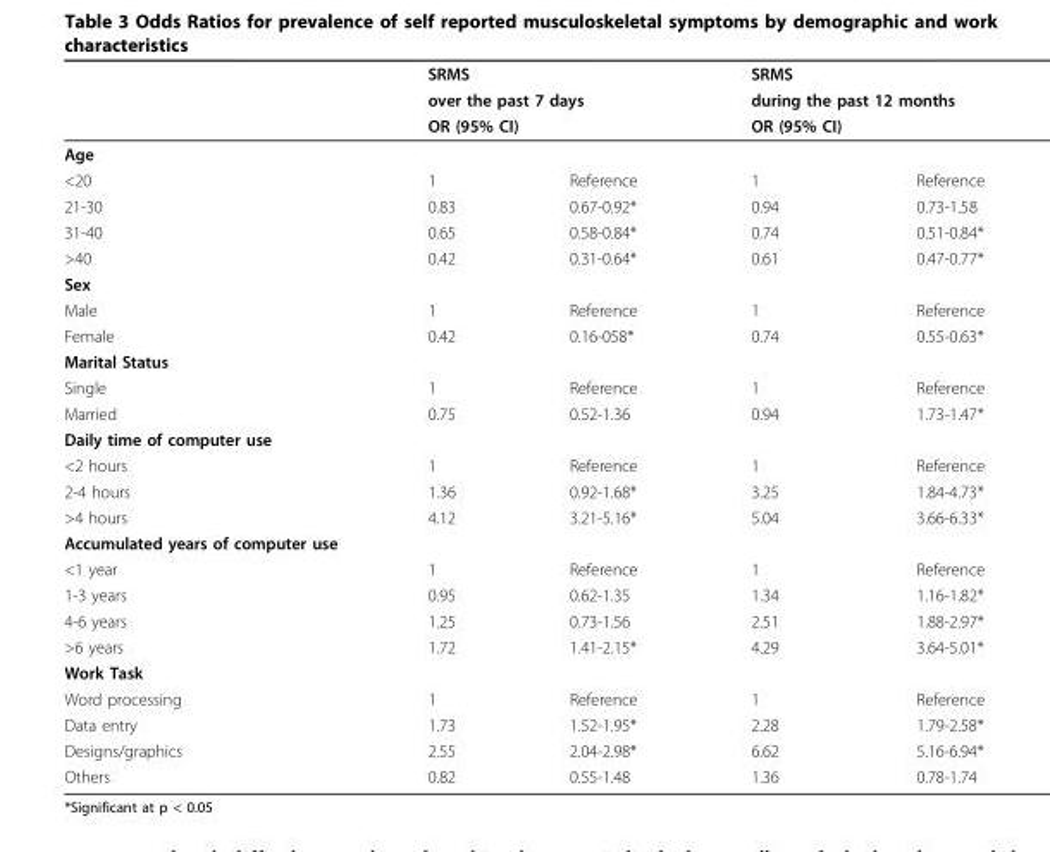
<table><thead><tr><td rowspan="4">Age</td><td rowspan="3" colspan="2">SRMS over the past 7 days OR (95% CI)</td><td rowspan="3" colspan="2">SRMS during the past 12 months OR (95% CI)</td></tr><tr></tr><tr></tr><tr><td></td><td></td><td></td><td></td></tr></thead><tbody><tr><td>&lt;20</td><td>1</td><td>Reference</td><td>1</td><td>Reference</td></tr><tr><td>21-30</td><td>0.83</td><td>0.67-0.92*</td><td>0.94</td><td>0.73-1.58</td></tr><tr><td>31-40</td><td>0.65</td><td>0.58-0.84*</td><td>0.74</td><td>0.51-0.84*</td></tr><tr><td>&gt;40</td><td>0.42</td><td>0.31-0.64*</td><td>0.61</td><td>0.47-0.77*</td></tr><tr><td colspan="5">Sex</td></tr><tr><td>Male</td><td>1</td><td>Reference</td><td>1</td><td>Reference</td></tr><tr><td>Female</td><td>0.42</td><td>0.16-058*</td><td>0.74</td><td>0.55-0.63*</td></tr><tr><td colspan="5">Marital Status</td></tr><tr><td>Single</td><td>1</td><td>Reference</td><td>1</td><td>Reference</td></tr><tr><td>Married</td><td>0.75</td><td>0.52-1.36</td><td>0.94</td><td>1.73-1.47*</td></tr><tr><td colspan="5">Daily time of computer use</td></tr><tr><td>&lt;2 hours</td><td>1</td><td>Reference</td><td>1</td><td>Reference</td></tr><tr><td>2-4 hours</td><td>1.36</td><td>0.92-1.68*</td><td>3.25</td><td>1.84-4.73*</td></tr><tr><td>&gt;4 hours</td><td>4.12</td><td>3.21-5.16*</td><td>5.04</td><td>3.66-6.33*</td></tr><tr><td colspan="5">Accumulated years of computer use</td></tr><tr><td>&lt;1 year</td><td>1</td><td>Reference</td><td>1</td><td>Reference</td></tr><tr><td>1-3 years</td><td>0.95</td><td>0.62-1.35</td><td>1.34</td><td>1.16-1.82*</td></tr><tr><td>4-6 years</td><td>1.25</td><td>0.73-1.56</td><td>2.51</td><td>1.88-2.97*</td></tr><tr><td>&gt;6 years</td><td>1.72</td><td>1.41-2.15*</td><td>4.29</td><td>3.64-5.01*</td></tr><tr><td colspan="5">Work Task</td></tr><tr><td>Word processing</td><td>1</td><td>Reference</td><td>1</td><td>Reference</td></tr><tr><td>Data entry</td><td>1.73</td><td>1.52-1.95*</td><td>2.28</td><td>1.79-2.58*</td></tr><tr><td>Designs/graphics</td><td>2.55</td><td>2.04-2.98*</td><td>6.62</td><td>5.16-6.94*</td></tr><tr><td>Others</td><td>0.82</td><td>0.55-1.48</td><td>1.36</td><td>0.78-1.74</td></tr></tbody></table>